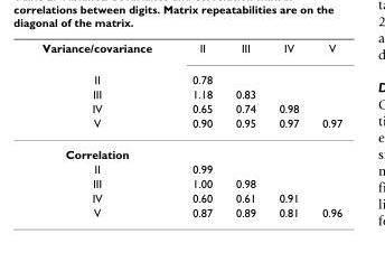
<table><thead><tr><td rowspan="5">Variance/covariance II III IV V</td><td rowspan="5">II 0.78 1.18 0.65 0.90</td><td rowspan="5">III 0.83 0.74 0.95</td><td rowspan="5">IV 0.98 0.97</td><td rowspan="5">V 0.97</td></tr><tr></tr><tr></tr><tr></tr><tr></tr></thead><tbody><tr><td colspan="5">Correlation</td></tr><tr><td>II</td><td>0.99</td><td></td><td></td><td></td></tr><tr><td>III</td><td>1.00</td><td>0.98</td><td></td><td></td></tr><tr><td>IV</td><td>0.60</td><td>0.61</td><td>0.91</td><td></td></tr><tr><td>V</td><td>0.87</td><td>0.89</td><td>0.81</td><td>0.96</td></tr></tbody></table>